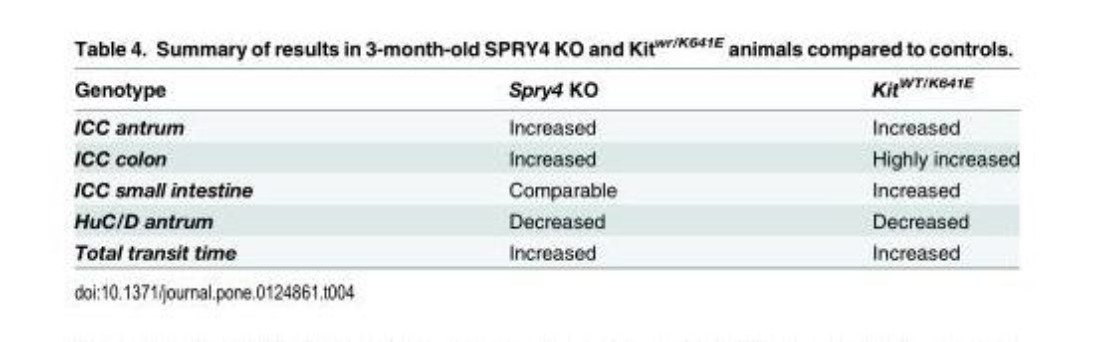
<table><thead><tr><td>Genotype</td><td>Spry4 KO</td><td>Kit<sup>WT/K641E</sup></td></tr></thead><tbody><tr><td>ICC antrum</td><td>Increased</td><td>Increased</td></tr><tr><td>ICC colon</td><td>Increased</td><td>Highly increased</td></tr><tr><td>ICC small intestine</td><td>Comparable</td><td>Increased</td></tr><tr><td>HuC/D antrum</td><td>Decreased</td><td>Decreased</td></tr><tr><td>Total transit time</td><td>Increased</td><td>Increased</td></tr></tbody></table>